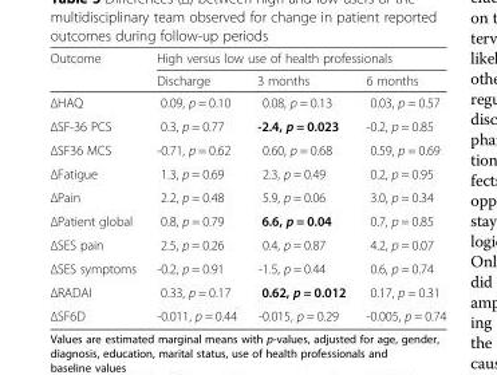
<table><thead><tr><td rowspan="2">Outcome</td><td colspan="3">High versus low use of health professionals</td></tr><tr><td>Discharge</td><td>3 months</td><td>6 months</td></tr></thead><tbody><tr><td>ΔHAQ</td><td>0.09, p = 0.10</td><td>0.08, p = 0.13</td><td>0.03, p = 0.57</td></tr><tr><td>ΔSF-36 PCS</td><td>0.3, p = 0.77</td><td>-2.4, p = 0.023</td><td>-0.2, p = 0.85</td></tr><tr><td>ΔSF36 MCS</td><td>-0.71, p = 0.62</td><td>0.60, p = 0.68</td><td>0.59, p = 0.69</td></tr><tr><td>ΔFatigue</td><td>1.3, p = 0.69</td><td>2.3, p = 0.49</td><td>0.2, p = 0.95</td></tr><tr><td>ΔPain</td><td>2.2, p = 0.48</td><td>5.9, p = 0.06</td><td>3.0, p = 0.34</td></tr><tr><td>ΔPatient global</td><td>0.8, p = 0.79</td><td>6.6, p = 0.04</td><td>0.7, p = 0.85</td></tr><tr><td>ΔSES pain</td><td>2.5, p = 0.26</td><td>0.4, p = 0.87</td><td>4.2, p = 0.07</td></tr><tr><td>ΔSES symptoms</td><td>-0.2, p = 0.91</td><td>-1.5, p = 0.44</td><td>0.6, p = 0.74</td></tr><tr><td>ΔRADAI</td><td>0.33, p = 0.17</td><td>0.62, p = 0.012</td><td>0.17, p = 0.31</td></tr><tr><td>ΔSF6D</td><td>-0.011, p = 0.44</td><td>-0.015, p = 0.29</td><td>-0.005, p = 0.74</td></tr></tbody></table>